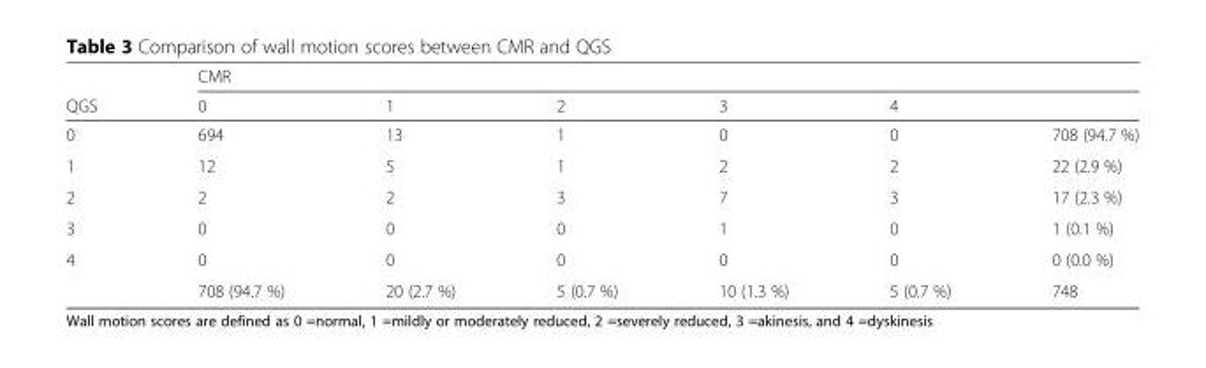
<table><thead><tr><td rowspan="2">QGS</td><td colspan="6">CMR</td></tr><tr><td>0</td><td>1</td><td>2</td><td>3</td><td>4</td><td></td></tr></thead><tbody><tr><td>0</td><td>694</td><td>13</td><td>1</td><td>0</td><td>0</td><td>708 (94.7 %)</td></tr><tr><td>1</td><td>12</td><td>5</td><td>1</td><td>2</td><td>2</td><td>22 (2.9 %)</td></tr><tr><td>2</td><td>2</td><td>2</td><td>3</td><td>7</td><td>3</td><td>17 (2.3 %)</td></tr><tr><td>3</td><td>0</td><td>0</td><td>0</td><td>1</td><td>0</td><td>1 (0.1 %)</td></tr><tr><td rowspan="2">4</td><td>0</td><td>0</td><td>0</td><td>0</td><td>0</td><td>0 (0.0 %)</td></tr><tr><td>708 (94.7 %)</td><td>20 (2.7 %)</td><td>5 (0.7 %)</td><td>10 (1.3 %)</td><td>5 (0.7 %)</td><td>748</td></tr></tbody></table>